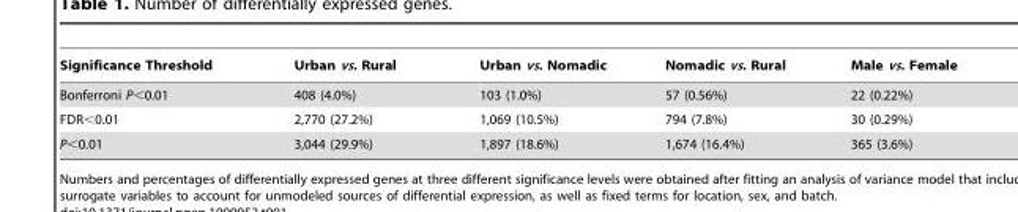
<table><thead><tr><td>Significance Threshold</td><td>Urban vs. Rural</td><td>Urban vs. Nomadic</td><td>Nomadic vs. Rural</td><td>Male vs. Female</td></tr></thead><tbody><tr><td>Bonferroni P&lt;0.01</td><td>408 (4.0%)</td><td>103 (1.0%)</td><td>57 (0.56%)</td><td>22 (0.22%)</td></tr><tr><td>FDR&lt;0.01</td><td>2,770 (27.2%)</td><td>1,069 (10.5%)</td><td>794 (7.8%)</td><td>30 (0.29%)</td></tr><tr><td>P&lt;0.01</td><td>3,044 (29.9%)</td><td>1,897 (18.6%)</td><td>1,674 (16.4%)</td><td>365 (3.6%)</td></tr></tbody></table>